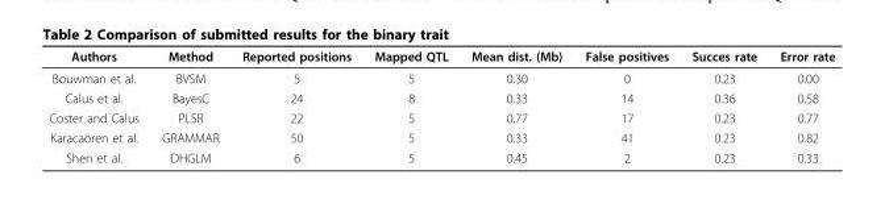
<table><thead><tr><td>Authors</td><td>Method</td><td>Reported positions</td><td>Mapped QTL</td><td>Mean dist. (Mb)</td><td>False positives</td><td>Succes rate</td><td>Error rate</td></tr></thead><tbody><tr><td>Bouwman et al.</td><td>BVSM</td><td>5</td><td>5</td><td>0.30</td><td>0</td><td>0.23</td><td>0.00</td></tr><tr><td>Calus et al.</td><td>BayesC</td><td>24</td><td>8</td><td>0.33</td><td>14</td><td>0.36</td><td>0.58</td></tr><tr><td>Coster and Calus</td><td>PLSR</td><td>22</td><td>5</td><td>0.77</td><td>17</td><td>0.23</td><td>0.77</td></tr><tr><td>Karacaören et al.</td><td>GRAMMAR</td><td>50</td><td>5</td><td>0.33</td><td>41</td><td>0.23</td><td>0.82</td></tr><tr><td>Shen et al.</td><td>DHGLM</td><td>6</td><td>5</td><td>0.45</td><td>2</td><td>0.23</td><td>0.33</td></tr></tbody></table>